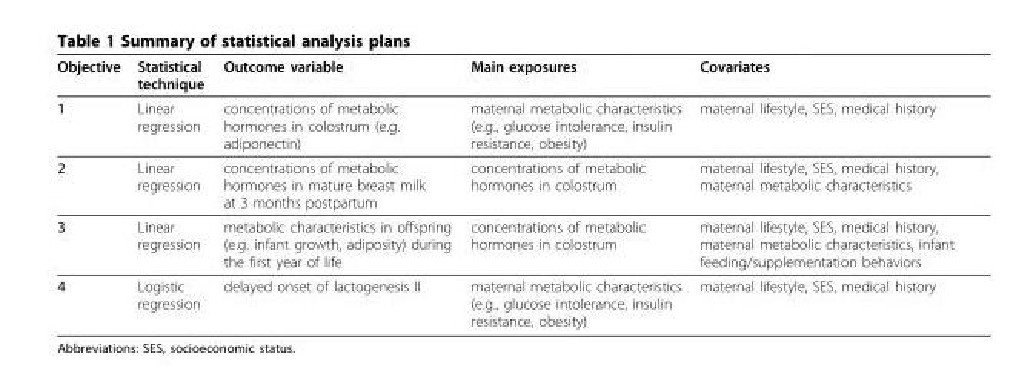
<table><thead><tr><td>Objective</td><td>Statistical technique</td><td>Outcome variable</td><td>Main exposures</td><td>Covariates</td></tr></thead><tbody><tr><td>1</td><td>Linear regression</td><td>concentrations of metabolic hormones in colostrum (e.g. adiponectin)</td><td>maternal metabolic characteristics (e.g., glucose intolerance, insulin resistance, obesity)</td><td>maternal lifestyle, SES, medical history</td></tr><tr><td>2</td><td>Linear regression</td><td>concentrations of metabolic hormones in mature breast milk at 3 months postpartum</td><td>concentrations of metabolic hormones in colostrum</td><td>maternal lifestyle, SES, medical history, maternal metabolic characteristics</td></tr><tr><td>3</td><td>Linear regression</td><td>metabolic characteristics in offspring (e.g. infant growth, adiposity) during the first year of life</td><td>concentrations of metabolic hormones in colostrum</td><td>maternal lifestyle, SES, medical history, maternal metabolic characteristics, infant feeding/supplementation behaviors</td></tr><tr><td>4</td><td>Logistic regression</td><td>delayed onset of lactogenesis II</td><td>maternal metabolic characteristics (e.g., glucose intolerance, insulin resistance, obesity)</td><td>maternal lifestyle, SES, medical history</td></tr></tbody></table>